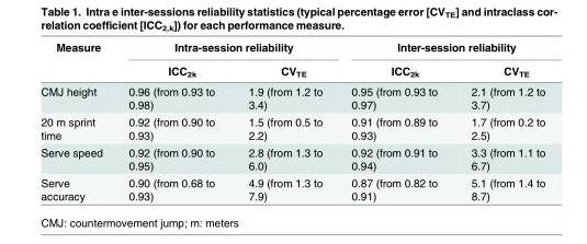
<table><thead><tr><td rowspan="2">Measure</td><td colspan="2">Intra-session reliability</td><td colspan="2">Inter-session reliability</td></tr><tr><td>ICC<sub>2k</sub></td><td>CV<sub>TE</sub></td><td>ICC<sub>2k</sub></td><td>CV<sub>TE</sub></td></tr></thead><tbody><tr><td>CMJ height</td><td>0.96 (from 0.93 to 0.98)</td><td>1.9 (from 1.2 to 3.4)</td><td>0.95 (from 0.93 to 0.97)</td><td>2.1 (from 1.2 to 3.7)</td></tr><tr><td>20 m sprint time</td><td>0.92 (from 0.90 to 0.93)</td><td>1.5 (from 0.5 to 2.2)</td><td>0.91 (from 0.89 to 0.93)</td><td>1.7 (from 0.2 to 2.5)</td></tr><tr><td>Serve speed</td><td>0.92 (from 0.90 to 0.95)</td><td>2.8 (from 1.3 to 6.0)</td><td>0.92 (from 0.91 to 0.94)</td><td>3.3 (from 1.1 to 6.7)</td></tr><tr><td>Serve accuracy</td><td>0.90 (from 0.68 to 0.93)</td><td>4.9 (from 1.3 to 7.9)</td><td>0.87 (from 0.82 to 0.91)</td><td>5.1 (from 1.4 to 8.7)</td></tr></tbody></table>